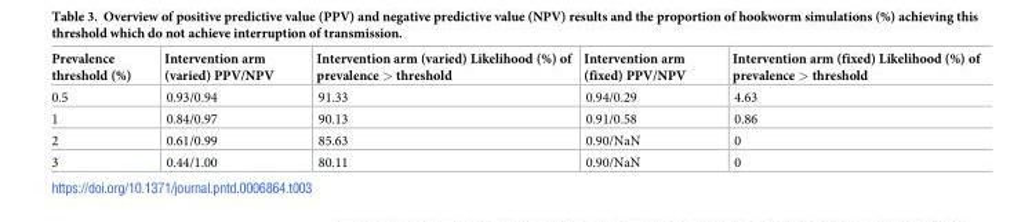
<table><thead><tr><td>Prevalence threshold (%)</td><td>Intervention arm (varied) PPV/NPV</td><td>Intervention arm (varied) Likelihood (%) of prevalence &gt; threshold</td><td>Intervention arm (fixed) PPV/NPV</td><td>Intervention arm (fixed) Likelihood (%) of prevalence &gt; threshold</td></tr></thead><tbody><tr><td>0.5</td><td>0.93/0.94</td><td>91.33</td><td>0.94/0.29</td><td>4.63</td></tr><tr><td>1</td><td>0.84/0.97</td><td>90.13</td><td>0.91/0.58</td><td>0.86</td></tr><tr><td>2</td><td>0.61/0.99</td><td>85.63</td><td>0.90/NaN</td><td>0</td></tr><tr><td>3</td><td>0.44/1.00</td><td>80.11</td><td>0.90/NaN</td><td>0</td></tr></tbody></table>